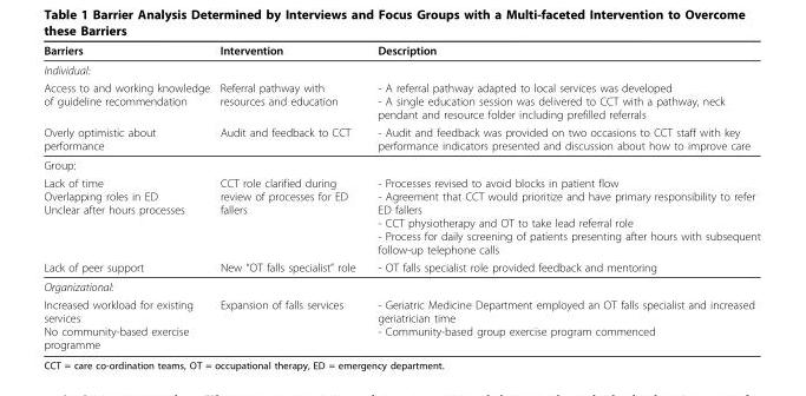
<table><thead><tr><td>Barriers</td><td>Intervention</td><td>Description</td></tr></thead><tbody><tr><td colspan="3">Individual:</td></tr><tr><td>Access to and working knowledge of guideline recommendation</td><td>Referral pathway with resources and education</td><td>- A referral pathway adapted to local services was developed - A single education session was delivered to CCT with a pathway, neck pendant and resource folder including prefilled referrals</td></tr><tr><td>Overly optimistic about performance</td><td>Audit and feedback to CCT</td><td>- Audit and feedback was provided on two occasions to CCT staff with key performance indicators presented and discussion about how to improve care</td></tr><tr><td colspan="3">Group:</td></tr><tr><td>Lack of time Overlapping roles in ED Unclear after hours processes</td><td>CCT role clarified during review of processes for ED fallers</td><td>- Processes revised to avoid blocks in patient flow - Agreement that CCT would prioritize and have primary responsibility to refer ED fallers - CCT physiotherapy and OT to take lead referral role - Process for daily screening of patients presenting after hours with subsequent follow-up telephone calls</td></tr><tr><td>Lack of peer support</td><td>New “OT falls specialist” role</td><td>- OT falls specialist role provided feedback and mentoring</td></tr><tr><td colspan="3">Organizational:</td></tr><tr><td>Increased workload for existing services No community-based exercise programme</td><td>Expansion of falls services</td><td>- Geriatric Medicine Department employed an OT falls specialist and increased geriatrician time - Community-based group exercise program commenced</td></tr></tbody></table>